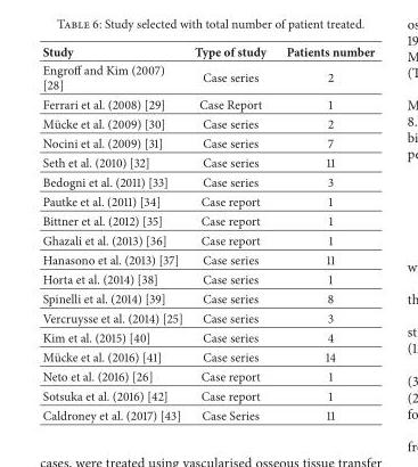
<table><thead><tr><td>Study</td><td>Type of study</td><td>Patients number</td></tr></thead><tbody><tr><td>Engroff and Kim (2007) [28]</td><td>Case series</td><td>2</td></tr><tr><td>Ferrari et al. (2008) [29]</td><td>Case Report</td><td>1</td></tr><tr><td>M¨ucke et al. (2009) [30]</td><td>Case series</td><td>2</td></tr><tr><td>Nocini et al. (2009) [31]</td><td>Case series</td><td>7</td></tr><tr><td>Seth et al. (2010) [32]</td><td>Case series</td><td>11</td></tr><tr><td>Bedogni et al. (2011) [33]</td><td>Case series</td><td>3</td></tr><tr><td>Pautke et al. (2011) [34]</td><td>Case report</td><td>1</td></tr><tr><td>Bittner et al. (2012) [35]</td><td>Case report</td><td>1</td></tr><tr><td>Ghazali et al. (2013) [36]</td><td>Case report</td><td>1</td></tr><tr><td>Hanasono et al. (2013) [37]</td><td>Case series</td><td>11</td></tr><tr><td>Horta et al. (2014) [38]</td><td>Case series</td><td>1</td></tr><tr><td>Spinelli et al. (2014) [39]</td><td>Case series</td><td>8</td></tr><tr><td>Vercruysse et al. (2014) [25]</td><td>Case series</td><td>3</td></tr><tr><td>Kim et al. (2015) [40]</td><td>Case series</td><td>4</td></tr><tr><td>M¨ucke et al. (2016) [41]</td><td>Case series</td><td>14</td></tr><tr><td>Neto et al. (2016) [26]</td><td>Case report</td><td>1</td></tr><tr><td>Sotsuka et al. (2016) [42]</td><td>Case report</td><td>1</td></tr><tr><td>Caldroney et al. (2017) [43]</td><td>Case Series</td><td>11</td></tr></tbody></table>